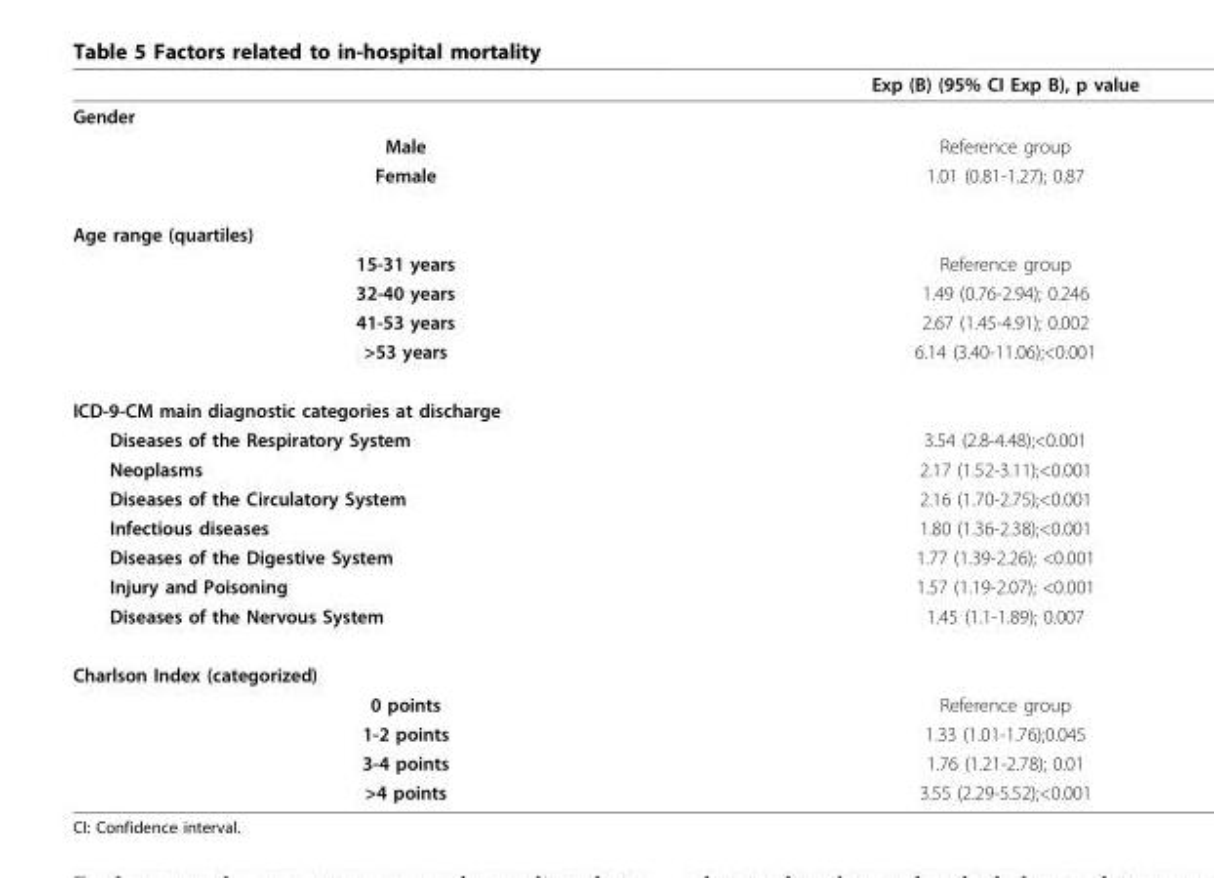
<table><thead><tr><td></td><td>Exp (B) (95% CI Exp B), p value</td></tr></thead><tbody><tr><td colspan="2">Gender</td></tr><tr><td>Male</td><td>Reference group</td></tr><tr><td>Female</td><td>1.01 (0.81-1.27); 0.87</td></tr><tr><td colspan="2">Age range (quartiles)</td></tr><tr><td>15-31 years</td><td>Reference group</td></tr><tr><td>32-40 years</td><td>1.49 (0.76-2.94); 0.246</td></tr><tr><td>41-53 years</td><td>2.67 (1.45-4.91); 0.002</td></tr><tr><td>&gt;53 years</td><td>6.14 (3.40-11.06);&lt;0.001</td></tr><tr><td colspan="2">ICD-9-CM main diagnostic categories at discharge</td></tr><tr><td>Diseases of the Respiratory System</td><td>3.54 (2.8-4.48);&lt;0.001</td></tr><tr><td>Neoplasms</td><td>2.17 (1.52-3.11);&lt;0.001</td></tr><tr><td>Diseases of the Circulatory System</td><td>2.16 (1.70-2.75);&lt;0.001</td></tr><tr><td>Infectious diseases</td><td>1.80 (1.36-2.38);&lt;0.001</td></tr><tr><td>Diseases of the Digestive System</td><td>1.77 (1.39-2.26); &lt;0.001</td></tr><tr><td>Injury and Poisoning</td><td>1.57 (1.19-2.07); &lt;0.001</td></tr><tr><td>Diseases of the Nervous System</td><td>1.45 (1.1-1.89); 0.007</td></tr><tr><td colspan="2">Charlson Index (categorized)</td></tr><tr><td>0 points</td><td>Reference group</td></tr><tr><td>1-2 points</td><td>1.33 (1.01-1.76);0.045</td></tr><tr><td>3-4 points</td><td>1.76 (1.21-2.78); 0.01</td></tr><tr><td>&gt;4 points</td><td>3.55 (2.29-5.52);&lt;0.001</td></tr></tbody></table>